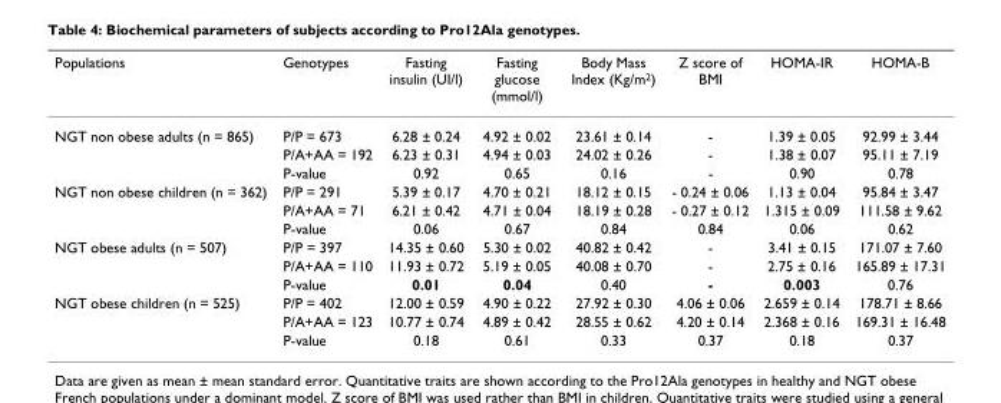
<table><thead><tr><td>Populations</td><td>Genotypes</td><td>Fasting insulin (UI/l)</td><td>Fasting glucose (mmol/l)</td><td>Body Mass Index (Kg/m2)</td><td>Z score of BMI</td><td>HOMA-IR</td><td>HOMA-B</td></tr></thead><tbody><tr><td rowspan="3">NGT non obese adults (n = 865)</td><td>P/P = 673</td><td>6.28 ± 0.24</td><td>4.92 ± 0.02</td><td>23.61 ± 0.14</td><td>-</td><td>1.39 ± 0.05</td><td>92.99 ± 3.44</td></tr><tr><td>P/A+AA = 192</td><td>6.23 ± 0.31</td><td>4.94 ± 0.03</td><td>24.02 ± 0.26</td><td>-</td><td>1.38 ± 0.07</td><td>95.11 ± 7.19</td></tr><tr><td>P-value</td><td>0.92</td><td>0.65</td><td>0.16</td><td>-</td><td>0.90</td><td>0.78</td></tr><tr><td rowspan="3">NGT non obese children (n = 362)</td><td>P/P = 291</td><td>5.39 ± 0.17</td><td>4.70 ± 0.21</td><td>18.12 ± 0.15</td><td>- 0.24 ± 0.06</td><td>1.13 ± 0.04</td><td>95.84 ± 3.47</td></tr><tr><td>P/A+AA = 71</td><td>6.21 ± 0.42</td><td>4.71 ± 0.04</td><td>18.19 ± 0.28</td><td>- 0.27 ± 0.12</td><td>1.315 ± 0.09</td><td>111.58 ± 9.62</td></tr><tr><td>P-value</td><td>0.06</td><td>0.67</td><td>0.84</td><td>0.84</td><td>0.06</td><td>0.62</td></tr><tr><td rowspan="3">NGT obese adults (n = 507)</td><td>P/P = 397</td><td>14.35 ± 0.60</td><td>5.30 ± 0.02</td><td>40.82 ± 0.42</td><td>-</td><td>3.41 ± 0.15</td><td>171.07 ± 7.60</td></tr><tr><td>P/A+AA = 110</td><td>11.93 ± 0.72</td><td>5.19 ± 0.05</td><td>40.08 ± 0.70</td><td>-</td><td>2.75 ± 0.16</td><td>165.89 ± 17.31</td></tr><tr><td>P-value</td><td>0.01</td><td>0.04</td><td>0.40</td><td>-</td><td>0.003</td><td>0.76</td></tr><tr><td rowspan="3">NGT obese children (n = 525)</td><td>P/P = 402</td><td>12.00 ± 0.59</td><td>4.90 ± 0.22</td><td>27.92 ± 0.30</td><td>4.06 ± 0.06</td><td>2.659 ± 0.14</td><td>178.71 ± 8.66</td></tr><tr><td>P/A+AA = 123</td><td>10.77 ± 0.74</td><td>4.89 ± 0.42</td><td>28.55 ± 0.62</td><td>4.20 ± 0.14</td><td>2.368 ± 0.16</td><td>169.31 ± 16.48</td></tr><tr><td>P-value</td><td>0.18</td><td>0.61</td><td>0.33</td><td>0.37</td><td>0.18</td><td>0.37</td></tr></tbody></table>